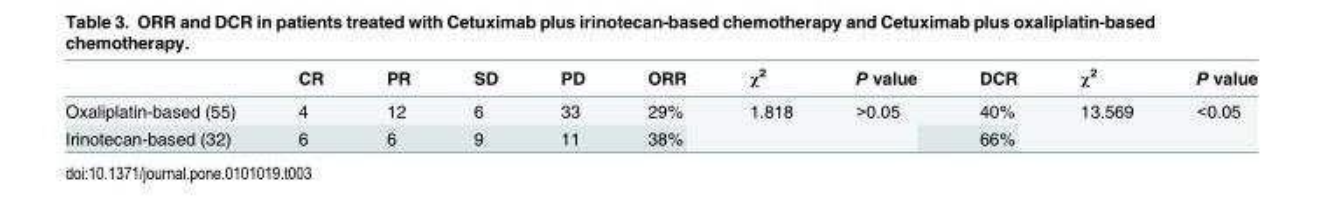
<table><thead><tr><td></td><td>CR</td><td>PR</td><td>SD</td><td>PD</td><td>ORR</td><td>χ<sup>2</sup></td><td>P value</td><td>DCR</td><td>χ<sup>2</sup></td><td>P value</td></tr></thead><tbody><tr><td>Oxaliplatin-based (55)</td><td>4</td><td>12</td><td>6</td><td>33</td><td>29%</td><td rowspan="2">1.818</td><td rowspan="2">&gt;0.05</td><td>40%</td><td rowspan="2">13.569</td><td rowspan="2">&lt;0.05</td></tr><tr><td>Irinotecan-based (32)</td><td>6</td><td>6</td><td>9</td><td>11</td><td>38%</td><td>66%</td></tr></tbody></table>